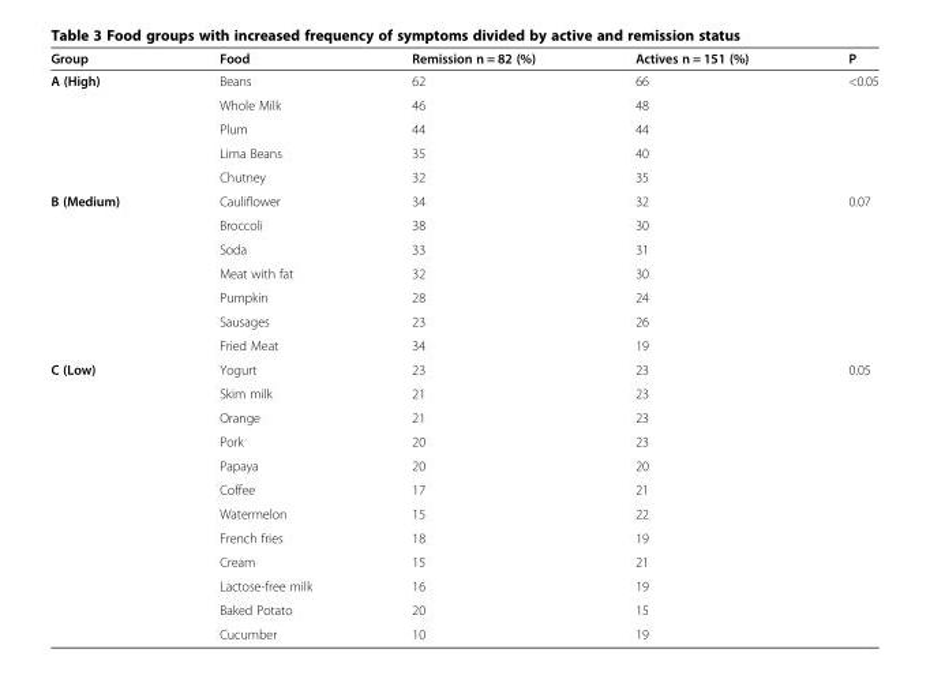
<table><thead><tr><td>Group</td><td>Food</td><td>Remission n = 82 (%)</td><td>Actives n = 151 (%)</td><td>P</td></tr></thead><tbody><tr><td rowspan="5">A (High)</td><td>Beans</td><td>62</td><td>66</td><td rowspan="5">&lt;0.05</td></tr><tr><td>Whole Milk</td><td>46</td><td>48</td></tr><tr><td>Plum</td><td>44</td><td>44</td></tr><tr><td>Lima Beans</td><td>35</td><td>40</td></tr><tr><td>Chutney</td><td>32</td><td>35</td></tr><tr><td rowspan="7">B (Medium)</td><td>Cauliflower</td><td>34</td><td>32</td><td rowspan="7">0.07</td></tr><tr><td>Broccoli</td><td>38</td><td>30</td></tr><tr><td>Soda</td><td>33</td><td>31</td></tr><tr><td>Meat with fat</td><td>32</td><td>30</td></tr><tr><td>Pumpkin</td><td>28</td><td>24</td></tr><tr><td>Sausages</td><td>23</td><td>26</td></tr><tr><td>Fried Meat</td><td>34</td><td>19</td></tr><tr><td rowspan="12">C (Low)</td><td>Yogurt</td><td>23</td><td>23</td><td rowspan="12">0.05</td></tr><tr><td>Skim milk</td><td>21</td><td>23</td></tr><tr><td>Orange</td><td>21</td><td>23</td></tr><tr><td>Pork</td><td>20</td><td>23</td></tr><tr><td>Papaya</td><td>20</td><td>20</td></tr><tr><td>Coffee</td><td>17</td><td>21</td></tr><tr><td>Watermelon</td><td>15</td><td>22</td></tr><tr><td>French fries</td><td>18</td><td>19</td></tr><tr><td>Cream</td><td>15</td><td>21</td></tr><tr><td>Lactose-free milk</td><td>16</td><td>19</td></tr><tr><td>Baked Potato</td><td>20</td><td>15</td></tr><tr><td>Cucumber</td><td>10</td><td>19</td></tr></tbody></table>